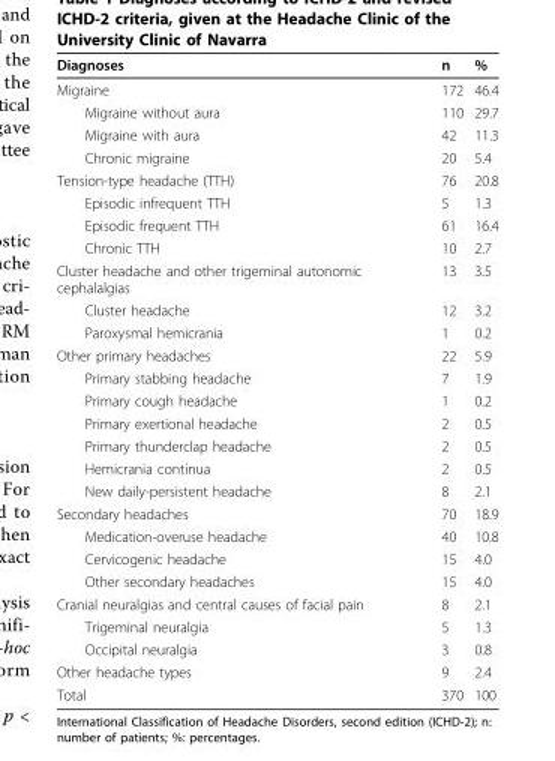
<table><thead><tr><td>Diagnoses</td><td>n</td><td>%</td></tr></thead><tbody><tr><td>Migraine</td><td>172</td><td>46.4</td></tr><tr><td>Migraine without aura</td><td>110</td><td>29.7</td></tr><tr><td>Migraine with aura</td><td>42</td><td>11.3</td></tr><tr><td>Chronic migraine</td><td>20</td><td>5.4</td></tr><tr><td>Tension-type headache (TTH)</td><td>76</td><td>20.8</td></tr><tr><td>Episodic infrequent TTH</td><td>5</td><td>1.3</td></tr><tr><td>Episodic frequent TTH</td><td>61</td><td>16.4</td></tr><tr><td>Chronic TTH</td><td>10</td><td>2.7</td></tr><tr><td>Cluster headache and other trigeminal autonomic cephalalgias</td><td>13</td><td>3.5</td></tr><tr><td>Cluster headache</td><td>12</td><td>3.2</td></tr><tr><td>Paroxysmal hemicrania</td><td>1</td><td>0.2</td></tr><tr><td>Other primary headaches</td><td>22</td><td>5.9</td></tr><tr><td>Primary stabbing headache</td><td>7</td><td>1.9</td></tr><tr><td>Primary cough headache</td><td>1</td><td>0.2</td></tr><tr><td>Primary exertional headache</td><td>2</td><td>0.5</td></tr><tr><td>Primary thunderclap headache</td><td>2</td><td>0.5</td></tr><tr><td>Hemicrania continua</td><td>2</td><td>0.5</td></tr><tr><td>New daily-persistent headache</td><td>8</td><td>2.1</td></tr><tr><td>Secondary headaches</td><td>70</td><td>18.9</td></tr><tr><td>Medication-overuse headache</td><td>40</td><td>10.8</td></tr><tr><td>Cervicogenic headache</td><td>15</td><td>4.0</td></tr><tr><td>Other secondary headaches</td><td>15</td><td>4.0</td></tr><tr><td>Cranial neuralgias and central causes of facial pain</td><td>8</td><td>2.1</td></tr><tr><td>Trigeminal neuralgia</td><td>5</td><td>1.3</td></tr><tr><td>Occipital neuralgia</td><td>3</td><td>0.8</td></tr><tr><td>Other headache types</td><td>9</td><td>2.4</td></tr><tr><td>Total</td><td>370</td><td>100</td></tr></tbody></table>